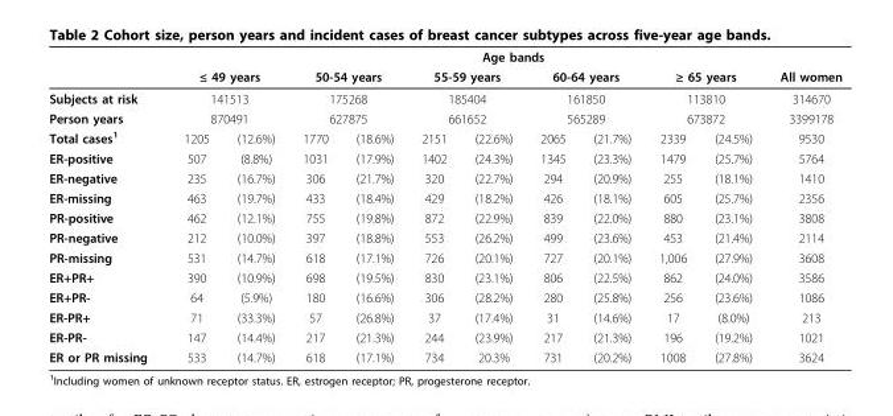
<table><thead><tr><td rowspan="5">Subjects at risk Person years Total cases<sup>1</sup></td><td colspan="11">Age bands</td></tr><tr><td rowspan="3" colspan="2">≤ 49 years 141513 870491</td><td rowspan="3" colspan="2">50-54 years 175268 627875</td><td rowspan="3" colspan="2">55-59 years 185404 661652</td><td rowspan="3" colspan="2">60-64 years 161850 565289</td><td rowspan="3" colspan="2">≥ 65 years 113810 673872</td><td rowspan="4">All women 314670 3399178 9530</td></tr><tr></tr><tr></tr><tr><td>1205</td><td>(12.6%)</td><td>1770</td><td>(18.6%)</td><td>2151</td><td>(22.6%)</td><td>2065</td><td>(21.7%)</td><td>2339</td><td>(24.5%)</td></tr></thead><tbody><tr><td>ER-positive</td><td>507</td><td>(8.8%)</td><td>1031</td><td>(17.9%)</td><td>1402</td><td>(24.3%)</td><td>1345</td><td>(23.3%)</td><td>1479</td><td>(25.7%)</td><td>5764</td></tr><tr><td>ER-negative</td><td>235</td><td>(16.7%)</td><td>306</td><td>(21.7%)</td><td>320</td><td>(22.7%)</td><td>294</td><td>(20.9%)</td><td>255</td><td>(18.1%)</td><td>1410</td></tr><tr><td>ER-missing</td><td>463</td><td>(19.7%)</td><td>433</td><td>(18.4%)</td><td>429</td><td>(18.2%)</td><td>426</td><td>(18.1%)</td><td>605</td><td>(25.7%)</td><td>2356</td></tr><tr><td>PR-positive</td><td>462</td><td>(12.1%)</td><td>755</td><td>(19.8%)</td><td>872</td><td>(22.9%)</td><td>839</td><td>(22.0%)</td><td>880</td><td>(23.1%)</td><td>3808</td></tr><tr><td>PR-negative</td><td>212</td><td>(10.0%)</td><td>397</td><td>(18.8%)</td><td>553</td><td>(26.2%)</td><td>499</td><td>(23.6%)</td><td>453</td><td>(21.4%)</td><td>2114</td></tr><tr><td>PR-missing</td><td>531</td><td>(14.7%)</td><td>618</td><td>(17.1%)</td><td>726</td><td>(20.1%)</td><td>727</td><td>(20.1%)</td><td>1,006</td><td>(27.9%)</td><td>3608</td></tr><tr><td>ER+PR+</td><td>390</td><td>(10.9%)</td><td>698</td><td>(19.5%)</td><td>830</td><td>(23.1%)</td><td>806</td><td>(22.5%)</td><td>862</td><td>(24.0%)</td><td>3586</td></tr><tr><td>ER+PR-</td><td>64</td><td>(5.9%)</td><td>180</td><td>(16.6%)</td><td>306</td><td>(28.2%)</td><td>280</td><td>(25.8%)</td><td>256</td><td>(23.6%)</td><td>1086</td></tr><tr><td>ER-PR+</td><td>71</td><td>(33.3%)</td><td>57</td><td>(26.8%)</td><td>37</td><td>(17.4%)</td><td>31</td><td>(14.6%)</td><td>17</td><td>(8.0%)</td><td>213</td></tr><tr><td>ER-PR-</td><td>147</td><td>(14.4%)</td><td>217</td><td>(21.3%)</td><td>244</td><td>(23.9%)</td><td>217</td><td>(21.3%)</td><td>196</td><td>(19.2%)</td><td>1021</td></tr><tr><td>ER or PR missing</td><td>533</td><td>(14.7%)</td><td>618</td><td>(17.1%)</td><td>734</td><td>20.3%</td><td>731</td><td>(20.2%)</td><td>1008</td><td>(27.8%)</td><td>3624</td></tr></tbody></table>